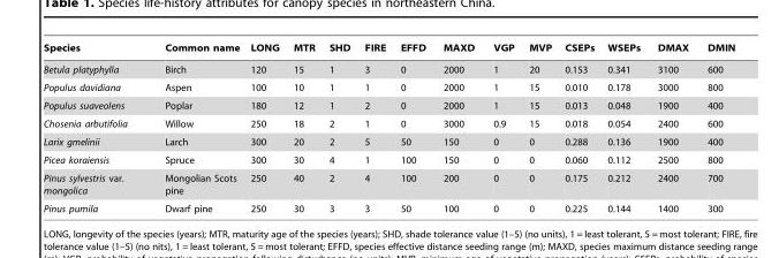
<table><thead><tr><td>Species</td><td>Common name</td><td>LONG</td><td>MTR</td><td>SHD</td><td>FIRE</td><td>EFFD</td><td>MAXD</td><td>VGP</td><td>MVP</td><td>CSEPs</td><td>WSEPs</td><td>DMAX</td><td>DMIN</td></tr></thead><tbody><tr><td>Betula platyphylla</td><td>Birch</td><td>120</td><td>15</td><td>1</td><td>3</td><td>0</td><td>2000</td><td>1</td><td>20</td><td>0.153</td><td>0.341</td><td>3100</td><td>600</td></tr><tr><td>Populus davidiana</td><td>Aspen</td><td>100</td><td>10</td><td>1</td><td>1</td><td>0</td><td>2000</td><td>1</td><td>15</td><td>0.010</td><td>0.178</td><td>3000</td><td>800</td></tr><tr><td>Populus suaveolens</td><td>Poplar</td><td>180</td><td>12</td><td>1</td><td>2</td><td>0</td><td>2000</td><td>1</td><td>15</td><td>0.013</td><td>0.048</td><td>1900</td><td>400</td></tr><tr><td>Chosenia arbutifolia</td><td>Willow</td><td>250</td><td>18</td><td>2</td><td>1</td><td>0</td><td>3000</td><td>0.9</td><td>15</td><td>0.018</td><td>0.054</td><td>2400</td><td>600</td></tr><tr><td>Larix gmelinii</td><td>Larch</td><td>300</td><td>20</td><td>2</td><td>5</td><td>50</td><td>150</td><td>0</td><td>0</td><td>0.288</td><td>0.136</td><td>1900</td><td>400</td></tr><tr><td>Picea koraiensis</td><td>Spruce</td><td>300</td><td>30</td><td>4</td><td>1</td><td>100</td><td>150</td><td>0</td><td>0</td><td>0.060</td><td>0.112</td><td>2500</td><td>800</td></tr><tr><td>Pinus sylvestris var. mongolica</td><td>Mongolian Scots pine</td><td>250</td><td>40</td><td>2</td><td>4</td><td>100</td><td>200</td><td>0</td><td>0</td><td>0.175</td><td>0.212</td><td>2400</td><td>700</td></tr><tr><td>Pinus pumila</td><td>Dwarf pine</td><td>250</td><td>30</td><td>3</td><td>3</td><td>50</td><td>100</td><td>0</td><td>0</td><td>0.225</td><td>0.144</td><td>1400</td><td>300</td></tr></tbody></table>